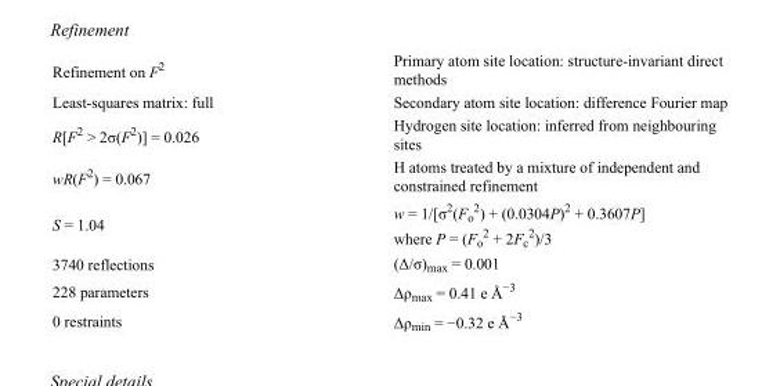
<table><tbody><tr><td>Refinement on F<sup>2</sup></td><td>Primary atom site location: structure-invariant direct methods</td></tr><tr><td>Least-squares matrix: full</td><td>Secondary atom site location: difference Fourier map</td></tr><tr><td>R[F<sup>2</sup> &gt; 2σ(F<sup>2</sup>)] = 0.026</td><td>Hydrogen site location: inferred from neighbouring sites</td></tr><tr><td>wR(F<sup>2</sup>) = 0.067</td><td>H atoms treated by a mixture of independent and constrained refinement</td></tr><tr><td>S = 1.04</td><td>w = 1/[σ<sup>2</sup>(F<sub>o</sub> <sup>2</sup>) + (0.0304P)<sup>2</sup> + 0.3607P] where P = (F<sub>o</sub> <sup>2</sup> + 2F<sub>c</sub> <sup>2</sup>)/3</td></tr><tr><td>3740 reflections</td><td>(Δ/σ)<sub>max</sub> = 0.001</td></tr><tr><td>228 parameters</td><td>Δρ<sub>max</sub> = 0.41 e Å<sup>−3</sup></td></tr><tr><td>0 restraints</td><td>Δρ<sub>min</sub> = −0.32 e Å<sup>−3</sup></td></tr></tbody></table>